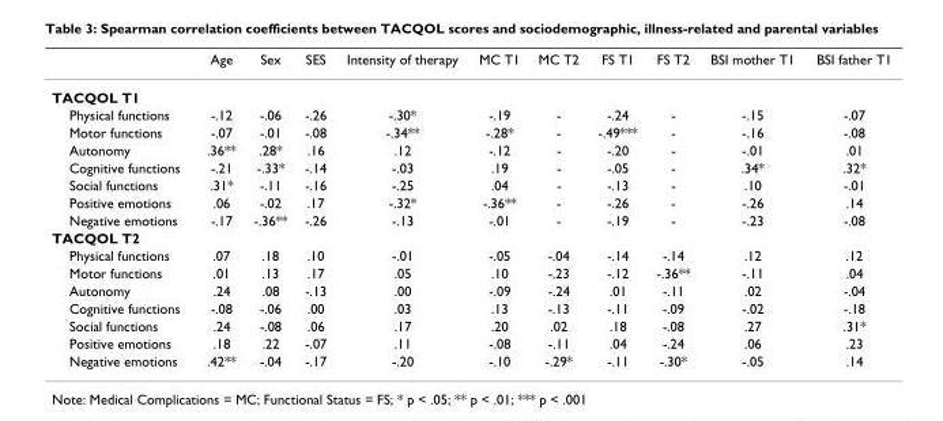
<table><thead><tr><td></td><td>Age</td><td>Sex</td><td>SES</td><td>Intensity of therapy</td><td>MC T1</td><td>MC T2</td><td>FS T1</td><td>FS T2</td><td>BSI mother T1</td><td>BSI father T1</td></tr></thead><tbody><tr><td colspan="11">TACQOL T1</td></tr><tr><td>Physical functions</td><td>-.12</td><td>-.06</td><td>-.26</td><td>-.30*</td><td>-.19</td><td>-</td><td>-.24</td><td>-</td><td>-.15</td><td>-.07</td></tr><tr><td>Motor functions</td><td>-.07</td><td>-.01</td><td>-.08</td><td>-.34**</td><td>-.28*</td><td>-</td><td>-.49***</td><td>-</td><td>-.16</td><td>-.08</td></tr><tr><td>Autonomy</td><td>.36**</td><td>.28*</td><td>.16</td><td>.12</td><td>-.12</td><td>-</td><td>-.20</td><td>-</td><td>-.01</td><td>.01</td></tr><tr><td>Cognitive functions</td><td>-.21</td><td>-.33*</td><td>-.14</td><td>-.03</td><td>.19</td><td>-</td><td>-.05</td><td>-</td><td>.34*</td><td>.32*</td></tr><tr><td>Social functions</td><td>.31*</td><td>-.11</td><td>-.16</td><td>-.25</td><td>.04</td><td>-</td><td>-.13</td><td>-</td><td>.10</td><td>-.01</td></tr><tr><td>Positive emotions</td><td>.06</td><td>-.02</td><td>.17</td><td>-.32*</td><td>-.36**</td><td>-</td><td>-.26</td><td>-</td><td>-.26</td><td>.14</td></tr><tr><td>Negative emotions</td><td>-.17</td><td>-.36**</td><td>-.26</td><td>-.13</td><td>-.01</td><td>-</td><td>-.19</td><td>-</td><td>-.23</td><td>-.08</td></tr><tr><td colspan="11">TACQOL T2</td></tr><tr><td>Physical functions</td><td>.07</td><td>.18</td><td>.10</td><td>-.01</td><td>-.05</td><td>-.04</td><td>-.14</td><td>-.14</td><td>.12</td><td>.12</td></tr><tr><td>Motor functions</td><td>.01</td><td>.13</td><td>.17</td><td>.05</td><td>.10</td><td>-.23</td><td>-.12</td><td>-.36**</td><td>-.11</td><td>.04</td></tr><tr><td>Autonomy</td><td>.24</td><td>.08</td><td>-.13</td><td>.00</td><td>-.09</td><td>-.24</td><td>.01</td><td>-.11</td><td>.02</td><td>-.04</td></tr><tr><td>Cognitive functions</td><td>-.08</td><td>-.06</td><td>.00</td><td>.03</td><td>.13</td><td>-.13</td><td>-.11</td><td>-.09</td><td>-.02</td><td>-.18</td></tr><tr><td>Social functions</td><td>.24</td><td>-.08</td><td>.06</td><td>.17</td><td>.20</td><td>.02</td><td>.18</td><td>-.08</td><td>.27</td><td>.31*</td></tr><tr><td>Positive emotions</td><td>.18</td><td>.22</td><td>-.07</td><td>.11</td><td>-.08</td><td>-.11</td><td>.04</td><td>-.24</td><td>.06</td><td>.23</td></tr><tr><td>Negative emotions</td><td>.42**</td><td>-.04</td><td>-.17</td><td>-.20</td><td>-.10</td><td>-.29*</td><td>-.11</td><td>-.30*</td><td>-.05</td><td>.14</td></tr></tbody></table>